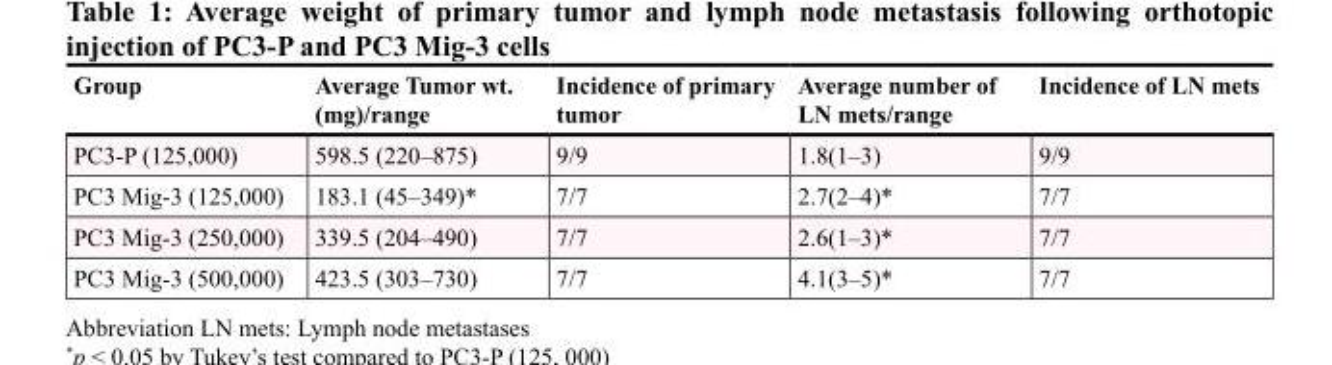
<table><thead><tr><td>Group</td><td>Average Tumor wt. (mg)/range</td><td>Incidence of primary tumor</td><td>Average number of LN mets/range</td><td>Incidence of LN mets</td></tr></thead><tbody><tr><td>PC3-P (125,000)</td><td>598.5 (220–875)</td><td>9/9</td><td>1.8(1–3)</td><td>9/9</td></tr><tr><td>PC3 Mig-3 (125,000)</td><td>183.1 (45–349)*</td><td>7/7</td><td>2.7(2–4)*</td><td>7/7</td></tr><tr><td>PC3 Mig-3 (250,000)</td><td>339.5 (204–490)</td><td>7/7</td><td>2.6(1–3)*</td><td>7/7</td></tr><tr><td>PC3 Mig-3 (500,000)</td><td>423.5 (303–730)</td><td>7/7</td><td>4.1(3–5)*</td><td>7/7</td></tr></tbody></table>